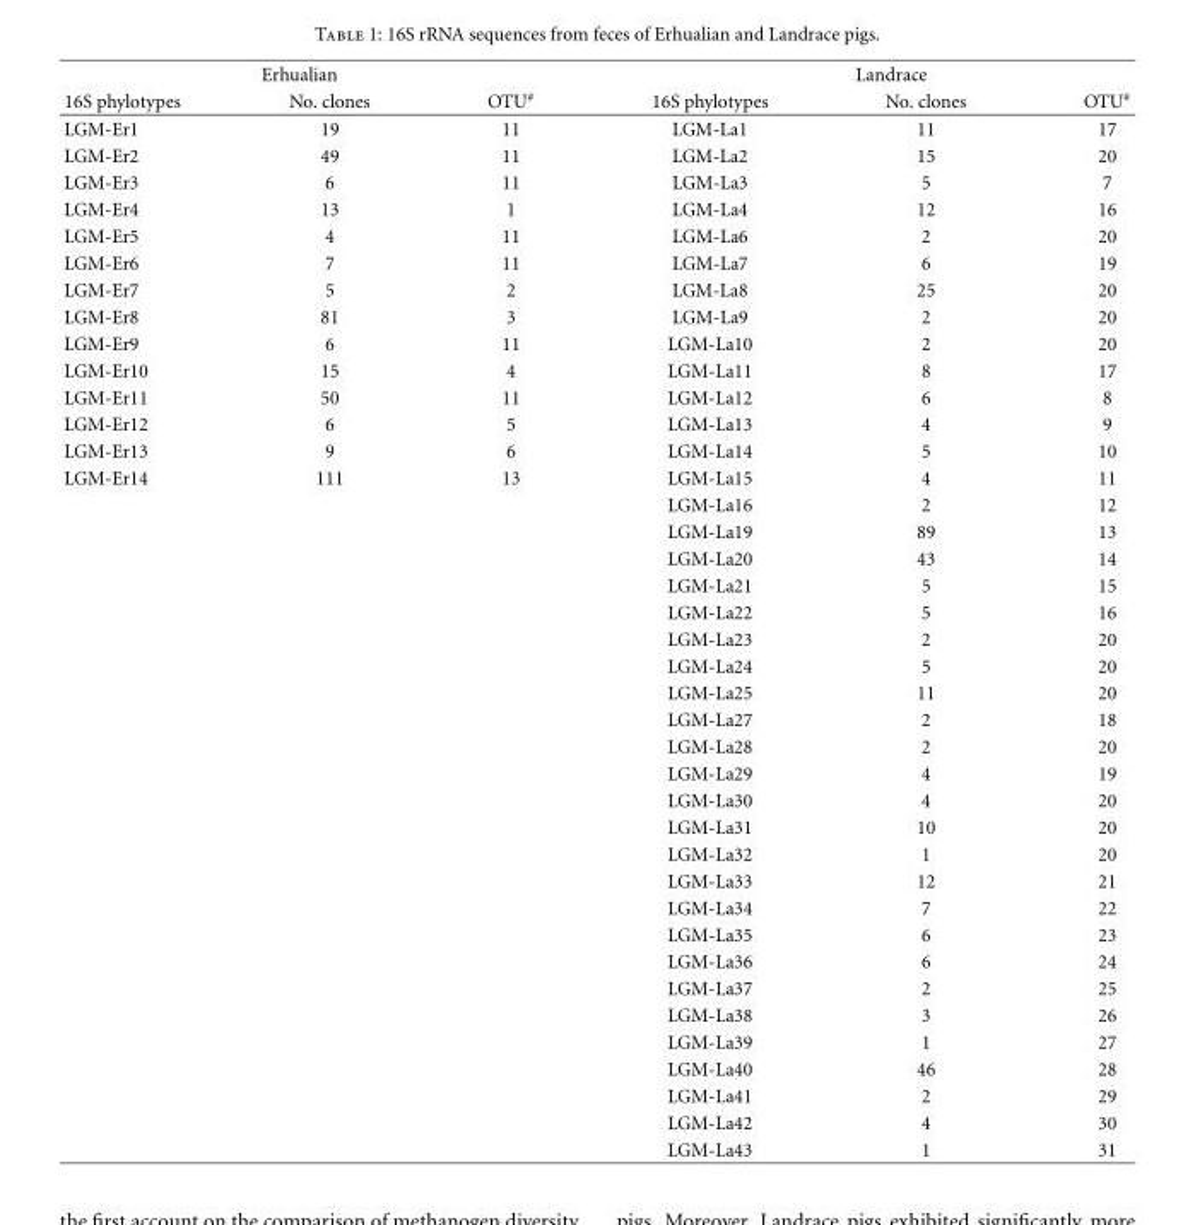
<table><thead><tr><td colspan="3">Erhualian</td><td colspan="3">Landrace</td></tr><tr><td>16S phylotypes</td><td>No. clones</td><td>OTU<sup>#</sup></td><td>16S phylotypes</td><td>No. clones</td><td>OTU<sup>#</sup></td></tr></thead><tbody><tr><td>LGM-Er1</td><td>19</td><td>11</td><td>LGM-La1</td><td>11</td><td>17</td></tr><tr><td>LGM-Er2</td><td>49</td><td>11</td><td>LGM-La2</td><td>15</td><td>20</td></tr><tr><td>LGM-Er3</td><td>6</td><td>11</td><td>LGM-La3</td><td>5</td><td>7</td></tr><tr><td>LGM-Er4</td><td>13</td><td>1</td><td>LGM-La4</td><td>12</td><td>16</td></tr><tr><td>LGM-Er5</td><td>4</td><td>11</td><td>LGM-La6</td><td>2</td><td>20</td></tr><tr><td>LGM-Er6</td><td>7</td><td>11</td><td>LGM-La7</td><td>6</td><td>19</td></tr><tr><td>LGM-Er7</td><td>5</td><td>2</td><td>LGM-La8</td><td>25</td><td>20</td></tr><tr><td>LGM-Er8</td><td>81</td><td>3</td><td>LGM-La9</td><td>2</td><td>20</td></tr><tr><td>LGM-Er9</td><td>6</td><td>11</td><td>LGM-La10</td><td>2</td><td>20</td></tr><tr><td>LGM-Er10</td><td>15</td><td>4</td><td>LGM-La11</td><td>8</td><td>17</td></tr><tr><td>LGM-Er11</td><td>50</td><td>11</td><td>LGM-La12</td><td>6</td><td>8</td></tr><tr><td>LGM-Er12</td><td>6</td><td>5</td><td>LGM-La13</td><td>4</td><td>9</td></tr><tr><td>LGM-Er13</td><td>9</td><td>6</td><td>LGM-La14</td><td>5</td><td>10</td></tr><tr><td rowspan="26">LGM-Er14</td><td>111</td><td>13</td><td>LGM-La15</td><td>4</td><td>11</td></tr><tr><td></td><td></td><td>LGM-La16</td><td>2</td><td>12</td></tr><tr><td></td><td></td><td>LGM-La19</td><td>89</td><td>13</td></tr><tr><td></td><td></td><td>LGM-La20</td><td>43</td><td>14</td></tr><tr><td></td><td></td><td>LGM-La21</td><td>5</td><td>15</td></tr><tr><td></td><td></td><td>LGM-La22</td><td>5</td><td>16</td></tr><tr><td></td><td></td><td>LGM-La23</td><td>2</td><td>20</td></tr><tr><td></td><td></td><td>LGM-La24</td><td>5</td><td>20</td></tr><tr><td></td><td></td><td>LGM-La25</td><td>11</td><td>20</td></tr><tr><td></td><td></td><td>LGM-La27</td><td>2</td><td>18</td></tr><tr><td></td><td></td><td>LGM-La28</td><td>2</td><td>20</td></tr><tr><td></td><td></td><td>LGM-La29</td><td>4</td><td>19</td></tr><tr><td></td><td></td><td>LGM-La30</td><td>4</td><td>20</td></tr><tr><td></td><td></td><td>LGM-La31</td><td>10</td><td>20</td></tr><tr><td></td><td></td><td>LGM-La32</td><td>1</td><td>20</td></tr><tr><td></td><td></td><td>LGM-La33</td><td>12</td><td>21</td></tr><tr><td></td><td></td><td>LGM-La34</td><td>7</td><td>22</td></tr><tr><td></td><td></td><td>LGM-La35</td><td>6</td><td>23</td></tr><tr><td></td><td></td><td>LGM-La36</td><td>6</td><td>24</td></tr><tr><td></td><td></td><td>LGM-La37</td><td>2</td><td>25</td></tr><tr><td></td><td></td><td>LGM-La38</td><td>3</td><td>26</td></tr><tr><td></td><td></td><td>LGM-La39</td><td>1</td><td>27</td></tr><tr><td></td><td></td><td>LGM-La40</td><td>46</td><td>28</td></tr><tr><td></td><td></td><td>LGM-La41</td><td>2</td><td>29</td></tr><tr><td></td><td></td><td>LGM-La42</td><td>4</td><td>30</td></tr><tr><td></td><td></td><td>LGM-La43</td><td>1</td><td>31</td></tr></tbody></table>